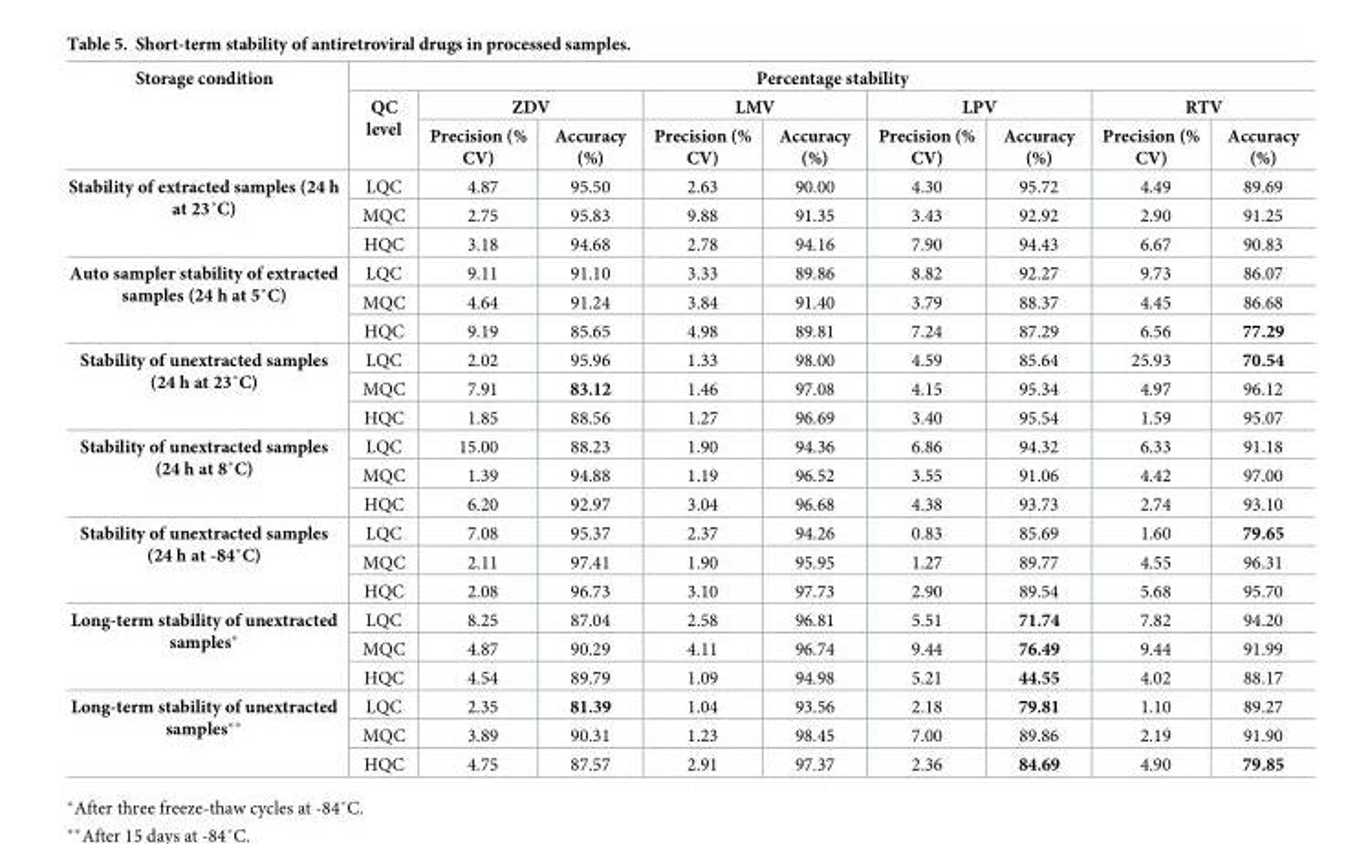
<table><thead><tr><td rowspan="3">Storage condition</td><td colspan="9">Percentage stability</td></tr><tr><td rowspan="2">QC level</td><td colspan="2">ZDV</td><td colspan="2">LMV</td><td colspan="2">LPV</td><td colspan="2">RTV</td></tr><tr><td>Precision (% CV)</td><td>Accuracy (%)</td><td>Precision (% CV)</td><td>Accuracy (%)</td><td>Precision (% CV)</td><td>Accuracy (%)</td><td>Precision (% CV)</td><td>Accuracy (%)</td></tr></thead><tbody><tr><td rowspan="3">Stability of extracted samples (24 h at 23˚C)</td><td>LQC</td><td>4.87</td><td>95.50</td><td>2.63</td><td>90.00</td><td>4.30</td><td>95.72</td><td>4.49</td><td>89.69</td></tr><tr><td>MQC</td><td>2.75</td><td>95.83</td><td>9.88</td><td>91.35</td><td>3.43</td><td>92.92</td><td>2.90</td><td>91.25</td></tr><tr><td>HQC</td><td>3.18</td><td>94.68</td><td>2.78</td><td>94.16</td><td>7.90</td><td>94.43</td><td>6.67</td><td>90.83</td></tr><tr><td rowspan="3">Auto sampler stability of extracted samples (24 h at 5˚C)</td><td>LQC</td><td>9.11</td><td>91.10</td><td>3.33</td><td>89.86</td><td>8.82</td><td>92.27</td><td>9.73</td><td>86.07</td></tr><tr><td>MQC</td><td>4.64</td><td>91.24</td><td>3.84</td><td>91.40</td><td>3.79</td><td>88.37</td><td>4.45</td><td>86.68</td></tr><tr><td>HQC</td><td>9.19</td><td>85.65</td><td>4.98</td><td>89.81</td><td>7.24</td><td>87.29</td><td>6.56</td><td>77.29</td></tr><tr><td rowspan="3">Stability of unextracted samples (24 h at 23˚C)</td><td>LQC</td><td>2.02</td><td>95.96</td><td>1.33</td><td>98.00</td><td>4.59</td><td>85.64</td><td>25.93</td><td>70.54</td></tr><tr><td>MQC</td><td>7.91</td><td>83.12</td><td>1.46</td><td>97.08</td><td>4.15</td><td>95.34</td><td>4.97</td><td>96.12</td></tr><tr><td>HQC</td><td>1.85</td><td>88.56</td><td>1.27</td><td>96.69</td><td>3.40</td><td>95.54</td><td>1.59</td><td>95.07</td></tr><tr><td rowspan="3">Stability of unextracted samples (24 h at 8˚C)</td><td>LQC</td><td>15.00</td><td>88.23</td><td>1.90</td><td>94.36</td><td>6.86</td><td>94.32</td><td>6.33</td><td>91.18</td></tr><tr><td>MQC</td><td>1.39</td><td>94.88</td><td>1.19</td><td>96.52</td><td>3.55</td><td>91.06</td><td>4.42</td><td>97.00</td></tr><tr><td>HQC</td><td>6.20</td><td>92.97</td><td>3.04</td><td>96.68</td><td>4.38</td><td>93.73</td><td>2.74</td><td>93.10</td></tr><tr><td rowspan="3">Stability of unextracted samples (24 h at -84˚C)</td><td>LQC</td><td>7.08</td><td>95.37</td><td>2.37</td><td>94.26</td><td>0.83</td><td>85.69</td><td>1.60</td><td>79.65</td></tr><tr><td>MQC</td><td>2.11</td><td>97.41</td><td>1.90</td><td>95.95</td><td>1.27</td><td>89.77</td><td>4.55</td><td>96.31</td></tr><tr><td>HQC</td><td>2.08</td><td>96.73</td><td>3.10</td><td>97.73</td><td>2.90</td><td>89.54</td><td>5.68</td><td>95.70</td></tr><tr><td rowspan="3">Long-term stability of unextracted samples*</td><td>LQC</td><td>8.25</td><td>87.04</td><td>2.58</td><td>96.81</td><td>5.51</td><td>71.74</td><td>7.82</td><td>94.20</td></tr><tr><td>MQC</td><td>4.87</td><td>90.29</td><td>4.11</td><td>96.74</td><td>9.44</td><td>76.49</td><td>9.44</td><td>91.99</td></tr><tr><td>HQC</td><td>4.54</td><td>89.79</td><td>1.09</td><td>94.98</td><td>5.21</td><td>44.55</td><td>4.02</td><td>88.17</td></tr><tr><td rowspan="3">Long-term stability of unextracted samples**</td><td>LQC</td><td>2.35</td><td>81.39</td><td>1.04</td><td>93.56</td><td>2.18</td><td>79.81</td><td>1.10</td><td>89.27</td></tr><tr><td>MQC</td><td>3.89</td><td>90.31</td><td>1.23</td><td>98.45</td><td>7.00</td><td>89.86</td><td>2.19</td><td>91.90</td></tr><tr><td>HQC</td><td>4.75</td><td>87.57</td><td>2.91</td><td>97.37</td><td>2.36</td><td>84.69</td><td>4.90</td><td>79.85</td></tr></tbody></table>